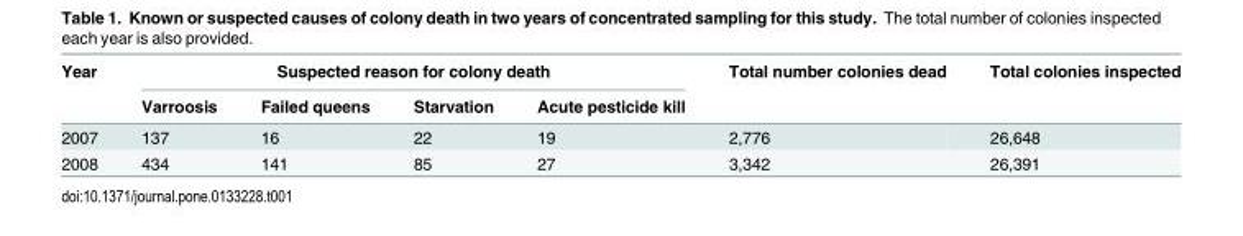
<table><thead><tr><td rowspan="2">Year</td><td colspan="4">Suspected reason for colony death</td><td rowspan="2">Total number colonies dead</td><td rowspan="2">Total colonies inspected</td></tr><tr><td>Varroosis</td><td>Failed queens</td><td>Starvation</td><td>Acute pesticide kill</td></tr></thead><tbody><tr><td>2007</td><td>137</td><td>16</td><td>22</td><td>19</td><td>2,776</td><td>26,648</td></tr><tr><td>2008</td><td>434</td><td>141</td><td>85</td><td>27</td><td>3,342</td><td>26,391</td></tr></tbody></table>